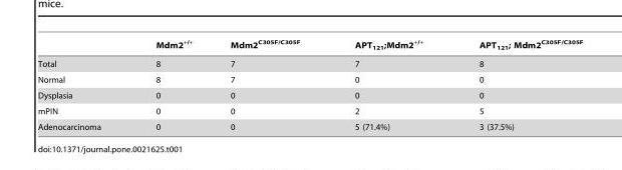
<table><thead><tr><td></td><td>Mdm2<sup>+/+</sup></td><td>Mdm2<sup>C305F/C305F</sup></td><td>APT<sub>121</sub>;Mdm2<sup>+/+</sup></td><td>APT<sub>121</sub>; Mdm2<sup>C305F/C305F</sup></td></tr></thead><tbody><tr><td>Total</td><td>8</td><td>7</td><td>7</td><td>8</td></tr><tr><td>Normal</td><td>8</td><td>7</td><td>0</td><td>0</td></tr><tr><td>Dysplasia</td><td>0</td><td>0</td><td>0</td><td>0</td></tr><tr><td>mPIN</td><td>0</td><td>0</td><td>2</td><td>5</td></tr><tr><td>Adenocarcinoma</td><td>0</td><td>0</td><td>5 (71.4%)</td><td>3 (37.5%)</td></tr></tbody></table>